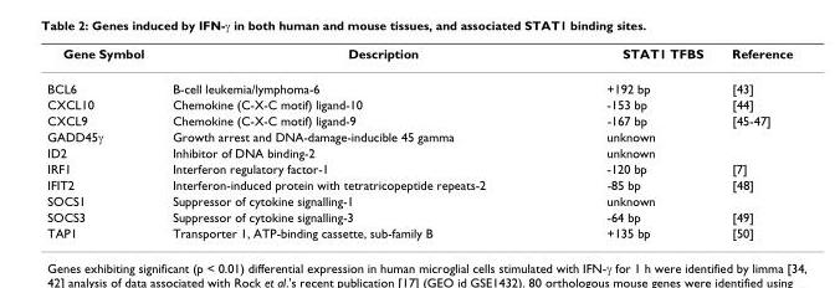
<table><thead><tr><td>Gene Symbol</td><td>Description</td><td>STAT1 TFBS</td><td>Reference</td></tr></thead><tbody><tr><td>BCL6</td><td>B-cell leukemia/lymphoma-6</td><td>+192 bp</td><td>[43]</td></tr><tr><td>CXCL10</td><td>Chemokine (C-X-C motif) ligand-10</td><td>-153 bp</td><td>[44]</td></tr><tr><td>CXCL9</td><td>Chemokine (C-X-C motif) ligand-9</td><td>-167 bp</td><td>[45-47]</td></tr><tr><td>GADD45γ</td><td>Growth arrest and DNA-damage-inducible 45 gamma</td><td>unknown</td><td></td></tr><tr><td>ID2</td><td>Inhibitor of DNA binding-2</td><td>unknown</td><td></td></tr><tr><td>IRF1</td><td>Interferon regulatory factor-1</td><td>-120 bp</td><td>[7]</td></tr><tr><td>IFIT2</td><td>Interferon-induced protein with tetratricopeptide repeats-2</td><td>-85 bp</td><td>[48]</td></tr><tr><td>SOCS1</td><td>Suppressor of cytokine signalling-1</td><td>unknown</td><td></td></tr><tr><td>SOCS3</td><td>Suppressor of cytokine signalling-3</td><td>-64 bp</td><td>[49]</td></tr><tr><td>TAP1</td><td>Transporter 1, ATP-binding cassette, sub-family B</td><td>+135 bp</td><td>[50]</td></tr></tbody></table>